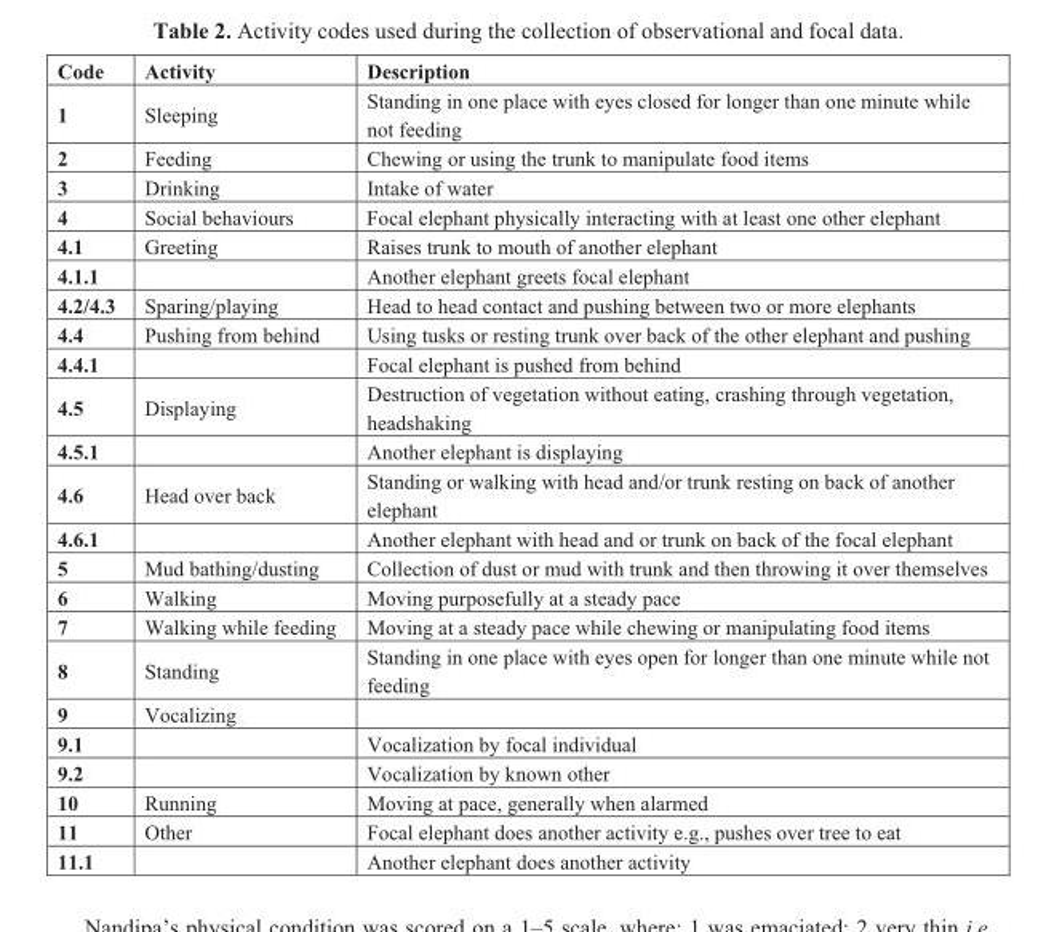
<table><thead><tr><td>Code</td><td>Activity</td><td>Description</td></tr></thead><tbody><tr><td>1</td><td>Sleeping</td><td>Standing in one place with eyes closed for longer than one minute while not feeding</td></tr><tr><td>2</td><td>Feeding</td><td>Chewing or using the trunk to manipulate food items</td></tr><tr><td>3</td><td>Drinking</td><td>Intake of water</td></tr><tr><td>4</td><td>Social behaviours</td><td>Focal elephant physically interacting with at least one other elephant</td></tr><tr><td>4.1</td><td>Greeting</td><td>Raises trunk to mouth of another elephant</td></tr><tr><td>4.1.1</td><td></td><td>Another elephant greets focal elephant</td></tr><tr><td>4.2/4.3</td><td>Sparing/playing</td><td>Head to head contact and pushing between two or more elephants</td></tr><tr><td>4.4</td><td>Pushing from behind</td><td>Using tusks or resting trunk over back of the other elephant and pushing</td></tr><tr><td>4.4.1</td><td></td><td>Focal elephant is pushed from behind</td></tr><tr><td>4.5</td><td>Displaying</td><td>Destruction of vegetation without eating, crashing through vegetation, headshaking</td></tr><tr><td>4.5.1</td><td></td><td>Another elephant is displaying</td></tr><tr><td>4.6</td><td>Head over back</td><td>Standing or walking with head and/or trunk resting on back of another elephant</td></tr><tr><td>4.6.1</td><td></td><td>Another elephant with head and or trunk on back of the focal elephant</td></tr><tr><td>5</td><td>Mud bathing/dusting</td><td>Collection of dust or mud with trunk and then throwing it over themselves</td></tr><tr><td>6</td><td>Walking</td><td>Moving purposefully at a steady pace</td></tr><tr><td>7</td><td>Walking while feeding</td><td>Moving at a steady pace while chewing or manipulating food items</td></tr><tr><td>8</td><td>Standing</td><td>Standing in one place with eyes open for longer than one minute while not feeding</td></tr><tr><td>9</td><td>Vocalizing</td><td></td></tr><tr><td>9.1</td><td></td><td>Vocalization by focal individual</td></tr><tr><td>9.2</td><td></td><td>Vocalization by known other</td></tr><tr><td>10</td><td>Running</td><td>Moving at pace, generally when alarmed</td></tr><tr><td>11</td><td>Other</td><td>Focal elephant does another activity e.g., pushes over tree to eat</td></tr><tr><td>11.1</td><td></td><td>Another elephant does another activity</td></tr></tbody></table>